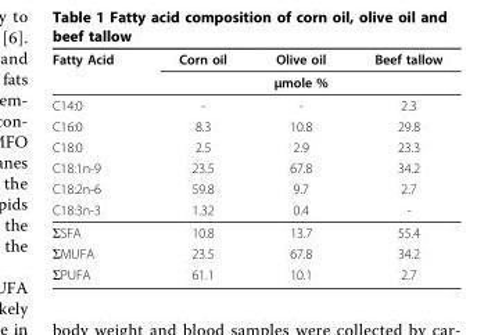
<table><thead><tr><td rowspan="2">Fatty Acid</td><td rowspan="2">Corn oil</td><td rowspan="2">Olive oil μmole %</td><td rowspan="2">Beef tallow</td></tr><tr></tr></thead><tbody><tr><td>C14:0</td><td>-</td><td>-</td><td>2.3</td></tr><tr><td>C16:0</td><td>8.3</td><td>10.8</td><td>29.8</td></tr><tr><td>C18:0</td><td>2.5</td><td>2.9</td><td>23.3</td></tr><tr><td>C18:1n-9</td><td>23.5</td><td>67.8</td><td>34.2</td></tr><tr><td>C18:2n-6</td><td>59.8</td><td>9.7</td><td>2.7</td></tr><tr><td>C18:3n-3</td><td>1.32</td><td>0.4</td><td>-</td></tr><tr><td>ΣSFA</td><td>10.8</td><td>13.7</td><td>55.4</td></tr><tr><td>ΣMUFA</td><td>23.5</td><td>67.8</td><td>34.2</td></tr><tr><td>ΣPUFA</td><td>61.1</td><td>10.1</td><td>2.7</td></tr></tbody></table>